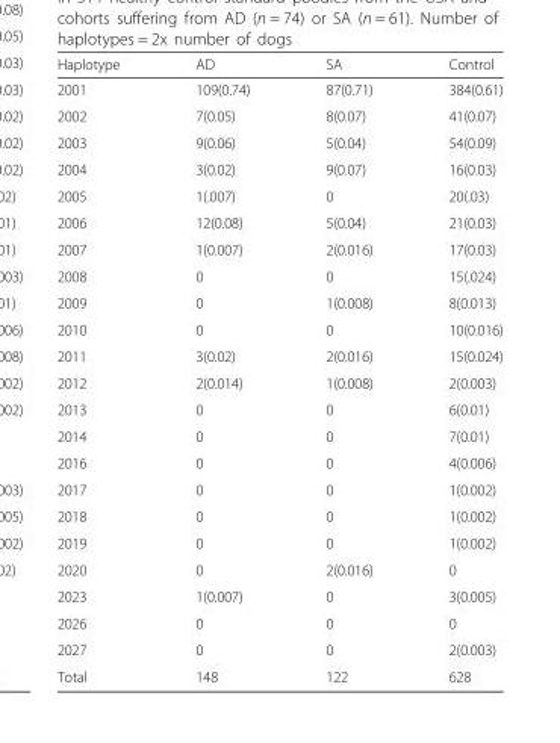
<table><thead><tr><td>Haplotype</td><td>AD</td><td>SA</td><td>Control</td></tr></thead><tbody><tr><td>2001</td><td>109(0.74)</td><td>87(0.71)</td><td>384(0.61)</td></tr><tr><td>2002</td><td>7(0.05)</td><td>8(0.07)</td><td>41(0.07)</td></tr><tr><td>2003</td><td>9(0.06)</td><td>5(0.04)</td><td>54(0.09)</td></tr><tr><td>2004</td><td>3(0.02)</td><td>9(0.07)</td><td>16(0.03)</td></tr><tr><td>2005</td><td>1(.007)</td><td>0</td><td>20(.03)</td></tr><tr><td>2006</td><td>12(0.08)</td><td>5(0.04)</td><td>21(0.03)</td></tr><tr><td>2007</td><td>1(0.007)</td><td>2(0.016)</td><td>17(0.03)</td></tr><tr><td>2008</td><td>0</td><td>0</td><td>15(.024)</td></tr><tr><td>2009</td><td>0</td><td>1(0.008)</td><td>8(0.013)</td></tr><tr><td>2010</td><td>0</td><td>0</td><td>10(0.016)</td></tr><tr><td>2011</td><td>3(0.02)</td><td>2(0.016)</td><td>15(0.024)</td></tr><tr><td>2012</td><td>2(0.014)</td><td>1(0.008)</td><td>2(0.003)</td></tr><tr><td>2013</td><td>0</td><td>0</td><td>6(0.01)</td></tr><tr><td>2014</td><td>0</td><td>0</td><td>7(0.01)</td></tr><tr><td>2016</td><td>0</td><td>0</td><td>4(0.006)</td></tr><tr><td>2017</td><td>0</td><td>0</td><td>1(0.002)</td></tr><tr><td>2018</td><td>0</td><td>0</td><td>1(0.002)</td></tr><tr><td>2019</td><td>0</td><td>0</td><td>1(0.002)</td></tr><tr><td>2020</td><td>0</td><td>2(0.016)</td><td>0</td></tr><tr><td>2023</td><td>1(0.007)</td><td>0</td><td>3(0.005)</td></tr><tr><td>2026</td><td>0</td><td>0</td><td>0</td></tr><tr><td>2027</td><td>0</td><td>0</td><td>2(0.003)</td></tr><tr><td>Total</td><td>148</td><td>122</td><td>628</td></tr></tbody></table>